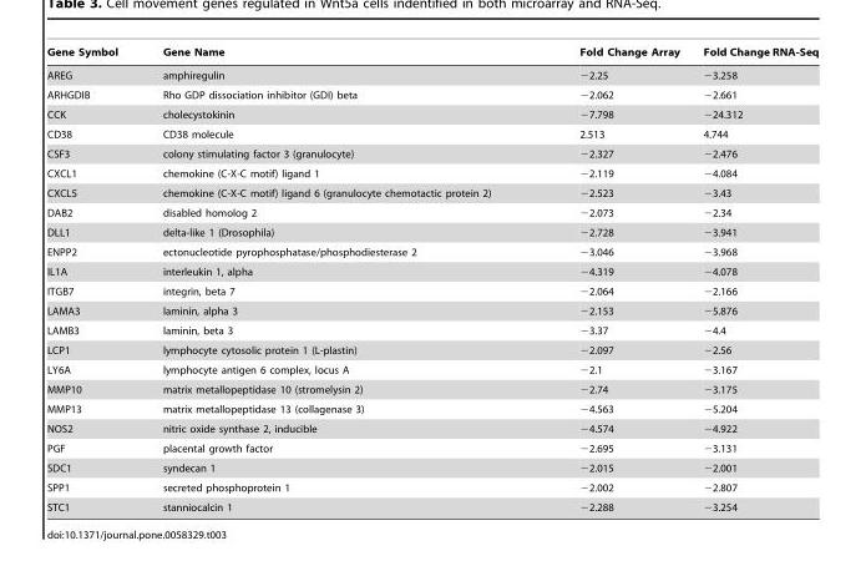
<table><thead><tr><td>Gene Symbol</td><td>Gene Name</td><td>Fold Change Array</td><td>Fold Change RNA-Seq</td></tr></thead><tbody><tr><td>AREG</td><td>amphiregulin</td><td>−2.25</td><td>−3.258</td></tr><tr><td>ARHGDIB</td><td>Rho GDP dissociation inhibitor (GDI) beta</td><td>−2.062</td><td>−2.661</td></tr><tr><td>CCK</td><td>cholecystokinin</td><td>−7.798</td><td>−24.312</td></tr><tr><td>CD38</td><td>CD38 molecule</td><td>2.513</td><td>4.744</td></tr><tr><td>CSF3</td><td>colony stimulating factor 3 (granulocyte)</td><td>−2.327</td><td>−2.476</td></tr><tr><td>CXCL1</td><td>chemokine (C-X-C motif) ligand 1</td><td>−2.119</td><td>−4.084</td></tr><tr><td>CXCL5</td><td>chemokine (C-X-C motif) ligand 6 (granulocyte chemotactic protein 2)</td><td>−2.523</td><td>−3.43</td></tr><tr><td>DAB2</td><td>disabled homolog 2</td><td>−2.073</td><td>−2.34</td></tr><tr><td>DLL1</td><td>delta-like 1 (Drosophila)</td><td>−2.728</td><td>−3.941</td></tr><tr><td>ENPP2</td><td>ectonucleotide pyrophosphatase/phosphodiesterase 2</td><td>−3.046</td><td>−3.968</td></tr><tr><td>IL1A</td><td>interleukin 1, alpha</td><td>−4.319</td><td>−4.078</td></tr><tr><td>ITGB7</td><td>integrin, beta 7</td><td>−2.064</td><td>−2.166</td></tr><tr><td>LAMA3</td><td>laminin, alpha 3</td><td>−2.153</td><td>−5.876</td></tr><tr><td>LAMB3</td><td>laminin, beta 3</td><td>−3.37</td><td>−4.4</td></tr><tr><td>LCP1</td><td>lymphocyte cytosolic protein 1 (L-plastin)</td><td>−2.097</td><td>−2.56</td></tr><tr><td>LY6A</td><td>lymphocyte antigen 6 complex, locus A</td><td>−2.1</td><td>−3.167</td></tr><tr><td>MMP10</td><td>matrix metallopeptidase 10 (stromelysin 2)</td><td>−2.74</td><td>−3.175</td></tr><tr><td>MMP13</td><td>matrix metallopeptidase 13 (collagenase 3)</td><td>−4.563</td><td>−5.204</td></tr><tr><td>NOS2</td><td>nitric oxide synthase 2, inducible</td><td>−4.574</td><td>−4.922</td></tr><tr><td>PGF</td><td>placental growth factor</td><td>−2.695</td><td>−3.131</td></tr><tr><td>SDC1</td><td>syndecan 1</td><td>−2.015</td><td>−2.001</td></tr><tr><td>SPP1</td><td>secreted phosphoprotein 1</td><td>−2.002</td><td>−2.807</td></tr><tr><td>STC1</td><td>stanniocalcin 1</td><td>−2.288</td><td>−3.254</td></tr></tbody></table>